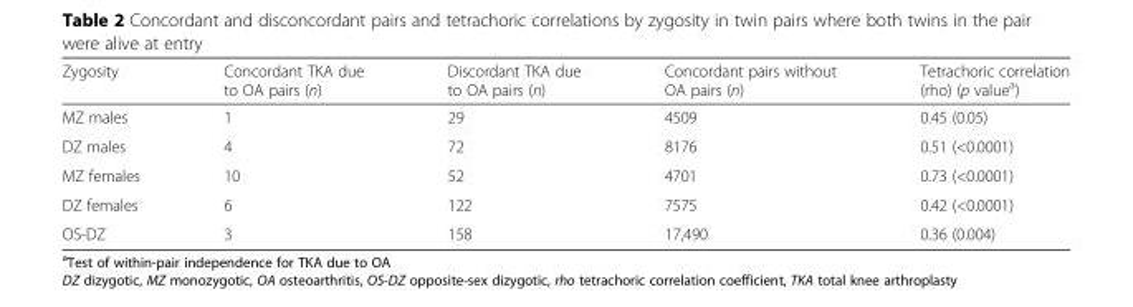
<table><thead><tr><td>Zygosity</td><td>Concordant TKA due to OA pairs (n)</td><td>Discordant TKA due to OA pairs (n)</td><td>Concordant pairs without OA pairs (n)</td><td>Tetrachoric correlation (rho) (p value<sup>a</sup>)</td></tr></thead><tbody><tr><td>MZ males</td><td>1</td><td>29</td><td>4509</td><td>0.45 (0.05)</td></tr><tr><td>DZ males</td><td>4</td><td>72</td><td>8176</td><td>0.51 (&lt;0.0001)</td></tr><tr><td>MZ females</td><td>10</td><td>52</td><td>4701</td><td>0.73 (&lt;0.0001)</td></tr><tr><td>DZ females</td><td>6</td><td>122</td><td>7575</td><td>0.42 (&lt;0.0001)</td></tr><tr><td>OS-DZ</td><td>3</td><td>158</td><td>17,490</td><td>0.36 (0.004)</td></tr></tbody></table>